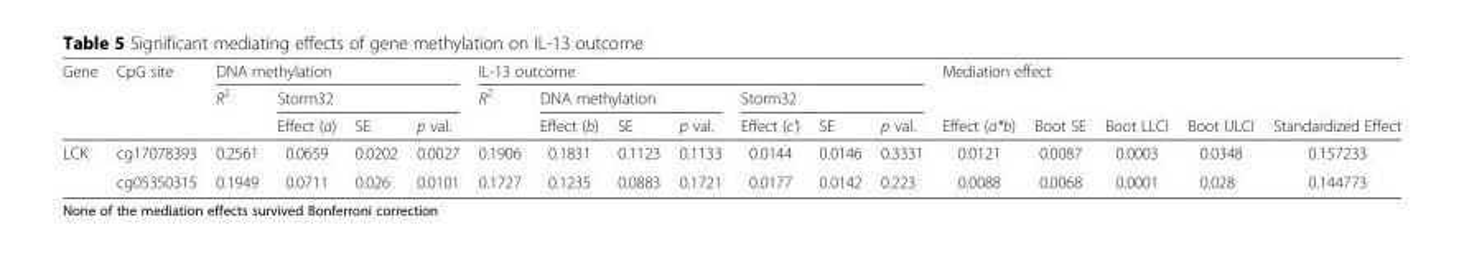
<table><thead><tr><td rowspan="3">Gene</td><td rowspan="3">CpG site</td><td colspan="4">DNA methylation</td><td colspan="7">IL-13 outcome</td><td rowspan="2" colspan="5">Mediation effect</td></tr><tr><td rowspan="2">R<sup>2</sup></td><td colspan="3">Storm32</td><td rowspan="2">R<sup>2</sup></td><td colspan="3">DNA methylation</td><td colspan="3">Storm32</td></tr><tr><td>Effect (a)</td><td>SE</td><td>p val.</td><td>Effect (b)</td><td>SE</td><td>p val.</td><td>Effect (c&#x27;)</td><td>SE</td><td>p val.</td><td>Effect (a*b)</td><td>Boot SE</td><td>Boot LLCI</td><td>Boot ULCI</td><td>Standardized Effect</td></tr></thead><tbody><tr><td rowspan="2">LCK</td><td>cg17078393</td><td>0.2561</td><td>0.0659</td><td>0.0202</td><td>0.0027</td><td>0.1906</td><td>0.1831</td><td>0.1123</td><td>0.1133</td><td>0.0144</td><td>0.0146</td><td>0.3331</td><td>0.0121</td><td>0.0087</td><td>0.0003</td><td>0.0348</td><td>0.157233</td></tr><tr><td>cg05350315</td><td>0.1949</td><td>0.0711</td><td>0.026</td><td>0.0101</td><td>0.1727</td><td>0.1235</td><td>0.0883</td><td>0.1721</td><td>0.0177</td><td>0.0142</td><td>0.223</td><td>0.0088</td><td>0.0068</td><td>0.0001</td><td>0.028</td><td>0.144773</td></tr></tbody></table>